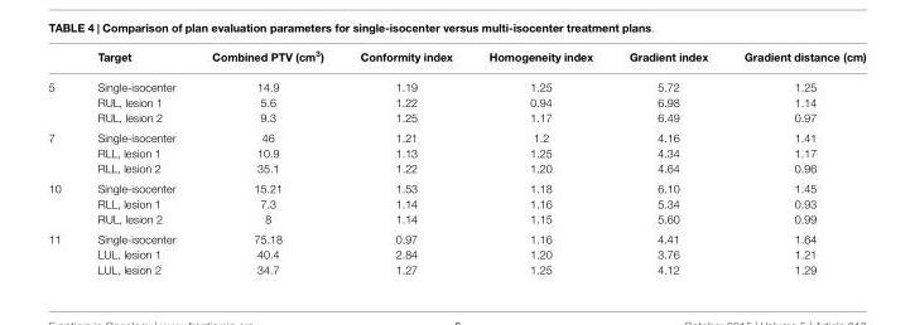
<table><thead><tr><td></td><td>Target</td><td>Combined PTV (cm<sup>3</sup>)</td><td>Conformity index</td><td>Homogeneity index</td><td>Gradient index</td><td>Gradient distance (cm)</td></tr></thead><tbody><tr><td rowspan="3">5</td><td>Single-isocenter</td><td>14.9</td><td>1.19</td><td>1.25</td><td>5.72</td><td>1.25</td></tr><tr><td>RUL, lesion 1</td><td>5.6</td><td>1.22</td><td>0.94</td><td>6.98</td><td>1.14</td></tr><tr><td>RUL, lesion 2</td><td>9.3</td><td>1.25</td><td>1.17</td><td>6.49</td><td>0.97</td></tr><tr><td rowspan="3">7</td><td>Single-isocenter</td><td>46</td><td>1.21</td><td>1.2</td><td>4.16</td><td>1.41</td></tr><tr><td>RLL, lesion 1</td><td>10.9</td><td>1.13</td><td>1.25</td><td>4.34</td><td>1.17</td></tr><tr><td>RLL, lesion 2</td><td>35.1</td><td>1.22</td><td>1.20</td><td>4.64</td><td>0.96</td></tr><tr><td rowspan="3">10</td><td>Single-isocenter</td><td>15.21</td><td>1.53</td><td>1.18</td><td>6.10</td><td>1.45</td></tr><tr><td>RLL, lesion 1</td><td>7.3</td><td>1.14</td><td>1.16</td><td>5.34</td><td>0.93</td></tr><tr><td>RUL, lesion 2</td><td>8</td><td>1.14</td><td>1.15</td><td>5.60</td><td>0.99</td></tr><tr><td rowspan="3">11</td><td>Single-isocenter</td><td>75.18</td><td>0.97</td><td>1.16</td><td>4.41</td><td>1.64</td></tr><tr><td>LUL, lesion 1</td><td>40.4</td><td>2.84</td><td>1.20</td><td>3.76</td><td>1.21</td></tr><tr><td>LUL, lesion 2</td><td>34.7</td><td>1.27</td><td>1.25</td><td>4.12</td><td>1.29</td></tr></tbody></table>